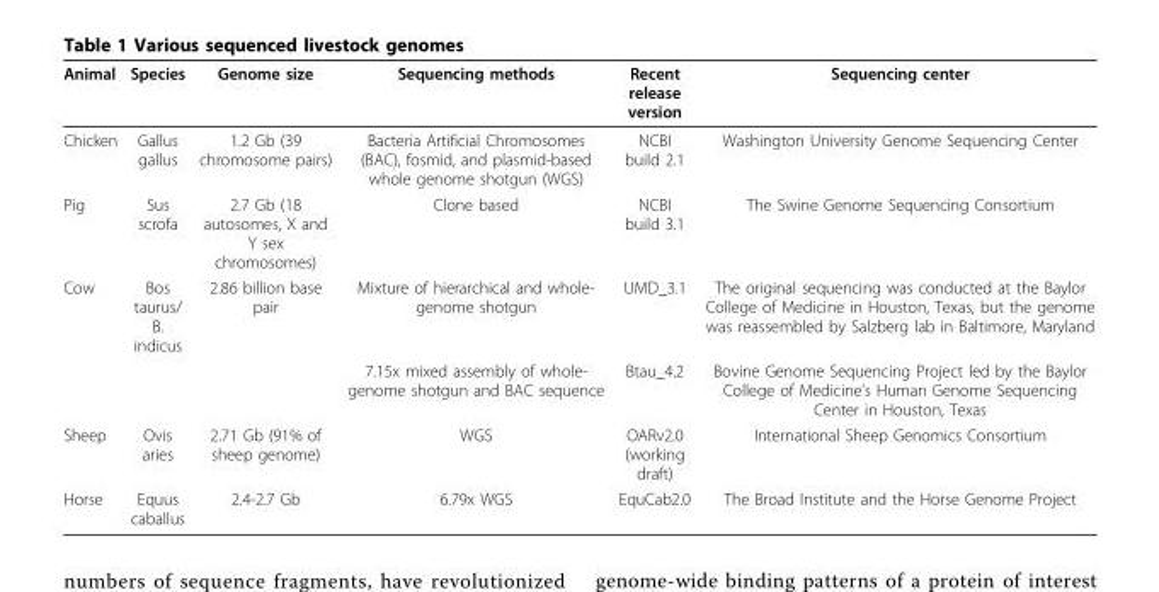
<table><thead><tr><td>Animal</td><td>Species</td><td>Genome size</td><td>Sequencing methods</td><td>Recent release version</td><td>Sequencing center</td></tr></thead><tbody><tr><td>Chicken</td><td>Gallus gallus</td><td>1.2 Gb (39 chromosome pairs)</td><td>Bacteria Artificial Chromosomes (BAC), fosmid, and plasmid-based whole genome shotgun (WGS)</td><td>NCBI build 2.1</td><td>Washington University Genome Sequencing Center</td></tr><tr><td>Pig</td><td>Sus scrofa</td><td>2.7 Gb (18 autosomes, X and Y sex chromosomes)</td><td>Clone based</td><td>NCBI build 3.1</td><td>The Swine Genome Sequencing Consortium</td></tr><tr><td rowspan="2">Cow</td><td>Bos taurus/ B. indicus</td><td>2.86 billion base pair</td><td>Mixture of hierarchical and whole- genome shotgun</td><td>UMD_3.1</td><td>The original sequencing was conducted at the Baylor College of Medicine in Houston, Texas, but the genome was reassembled by Salzberg lab in Baltimore, Maryland</td></tr><tr><td></td><td></td><td>7.15x mixed assembly of whole- genome shotgun and BAC sequence</td><td>Btau_4.2</td><td>Bovine Genome Sequencing Project led by the Baylor College of Medicine’s Human Genome Sequencing Center in Houston, Texas</td></tr><tr><td>Sheep</td><td>Ovis aries</td><td>2.71 Gb (91% of sheep genome)</td><td>WGS</td><td>OARv2.0 (working draft)</td><td>International Sheep Genomics Consortium</td></tr><tr><td>Horse</td><td>Equus caballus</td><td>2.4-2.7 Gb</td><td>6.79x WGS</td><td>EquCab2.0</td><td>The Broad Institute and the Horse Genome Project</td></tr></tbody></table>